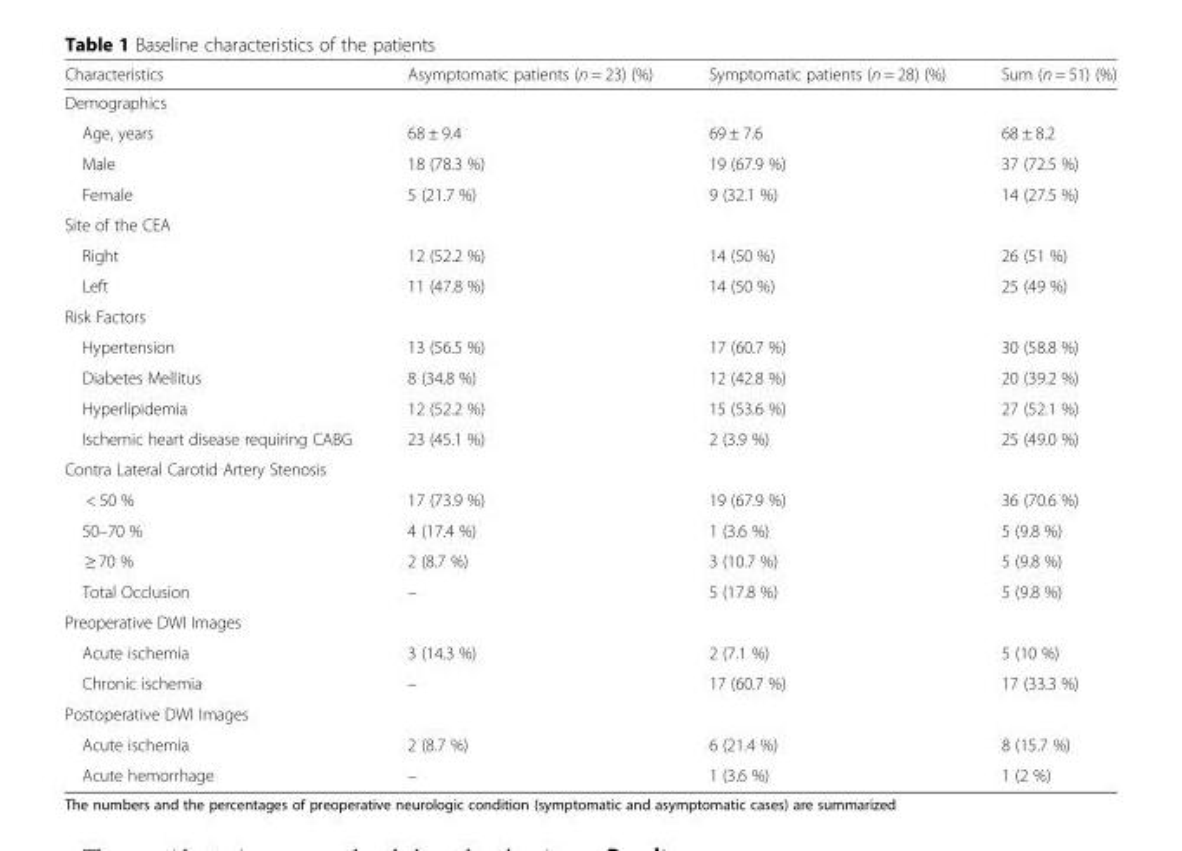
<table><thead><tr><td>Characteristics</td><td>Asymptomatic patients (n = 23) (%)</td><td>Symptomatic patients (n = 28) (%)</td><td>Sum (n = 51) (%)</td></tr></thead><tbody><tr><td colspan="4">Demographics</td></tr><tr><td>Age, years</td><td>68 ± 9.4</td><td>69 ± 7.6</td><td>68 ± 8.2</td></tr><tr><td>Male</td><td>18 (78.3 %)</td><td>19 (67.9 %)</td><td>37 (72.5 %)</td></tr><tr><td>Female</td><td>5 (21.7 %)</td><td>9 (32.1 %)</td><td>14 (27.5 %)</td></tr><tr><td colspan="4">Site of the CEA</td></tr><tr><td>Right</td><td>12 (52.2 %)</td><td>14 (50 %)</td><td>26 (51 %)</td></tr><tr><td>Left</td><td>11 (47.8 %)</td><td>14 (50 %)</td><td>25 (49 %)</td></tr><tr><td colspan="4">Risk Factors</td></tr><tr><td>Hypertension</td><td>13 (56.5 %)</td><td>17 (60.7 %)</td><td>30 (58.8 %)</td></tr><tr><td>Diabetes Mellitus</td><td>8 (34.8 %)</td><td>12 (42.8 %)</td><td>20 (39.2 %)</td></tr><tr><td>Hyperlipidemia</td><td>12 (52.2 %)</td><td>15 (53.6 %)</td><td>27 (52.1 %)</td></tr><tr><td>Ischemic heart disease requiring CABG</td><td>23 (45.1 %)</td><td>2 (3.9 %)</td><td>25 (49.0 %)</td></tr><tr><td colspan="4">Contra Lateral Carotid Artery Stenosis</td></tr><tr><td>&lt; 50 %</td><td>17 (73.9 %)</td><td>19 (67.9 %)</td><td>36 (70.6 %)</td></tr><tr><td>50–70 %</td><td>4 (17.4 %)</td><td>1 (3.6 %)</td><td>5 (9.8 %)</td></tr><tr><td>≥ 70 %</td><td>2 (8.7 %)</td><td>3 (10.7 %)</td><td>5 (9.8 %)</td></tr><tr><td>Total Occlusion</td><td>–</td><td>5 (17.8 %)</td><td>5 (9.8 %)</td></tr><tr><td colspan="4">Preoperative DWI Images</td></tr><tr><td>Acute ischemia</td><td>3 (14.3 %)</td><td>2 (7.1 %)</td><td>5 (10 %)</td></tr><tr><td>Chronic ischemia</td><td>–</td><td>17 (60.7 %)</td><td>17 (33.3 %)</td></tr><tr><td colspan="4">Postoperative DWI Images</td></tr><tr><td>Acute ischemia</td><td>2 (8.7 %)</td><td>6 (21.4 %)</td><td>8 (15.7 %)</td></tr><tr><td>Acute hemorrhage</td><td>–</td><td>1 (3.6 %)</td><td>1 (2 %)</td></tr></tbody></table>